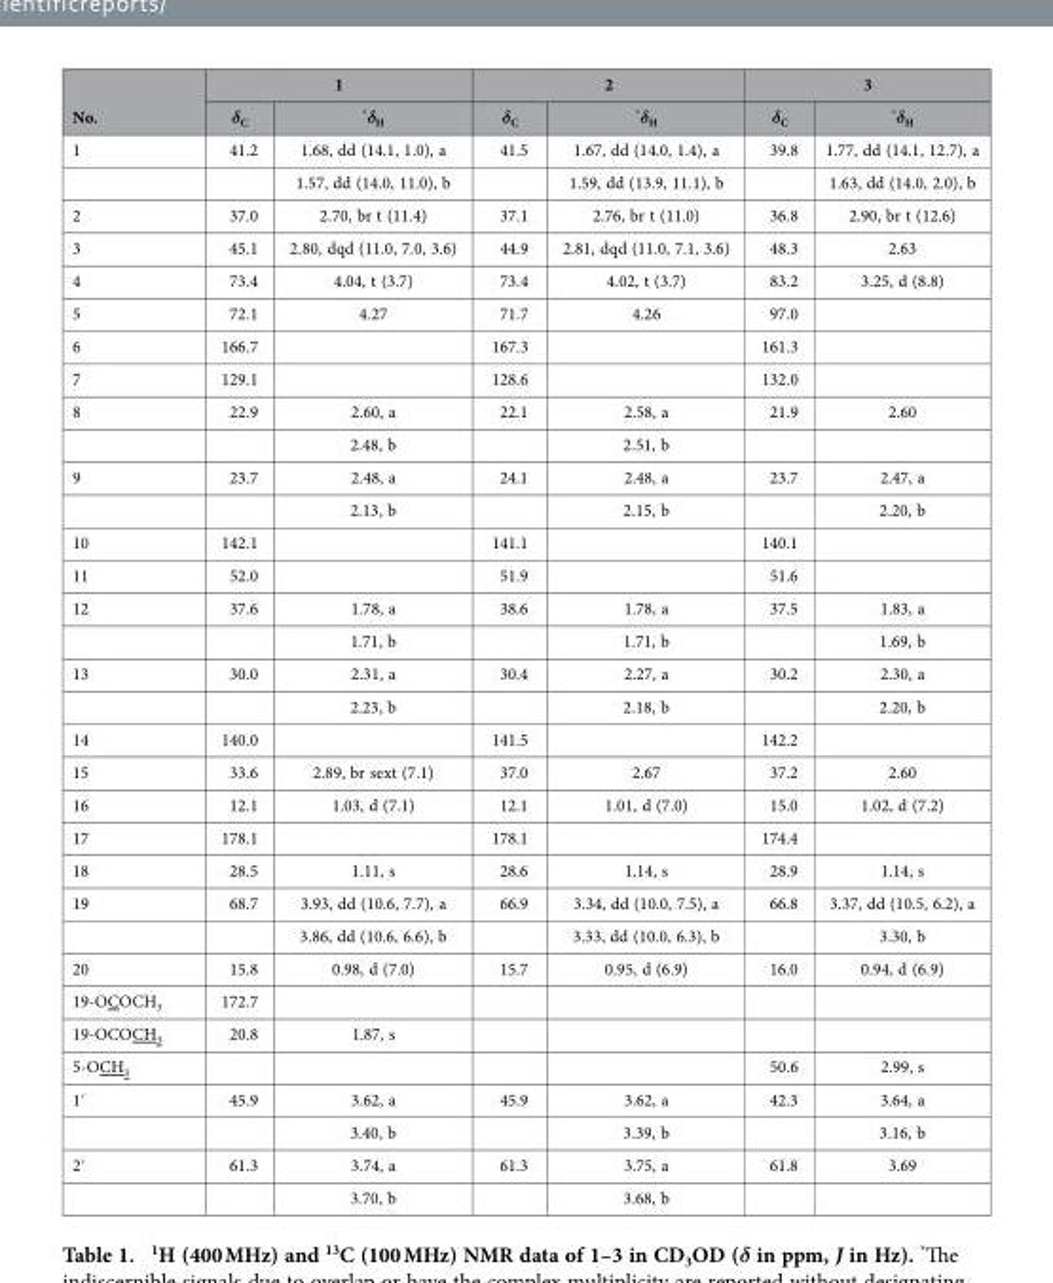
<table><thead><tr><td rowspan="2">No.</td><td colspan="2">1</td><td colspan="2">2</td><td colspan="2">3</td></tr><tr><td>δ<sub>C</sub></td><td>*δ<sub>H</sub></td><td>δ<sub>C</sub></td><td>*δ<sub>H</sub></td><td>δ<sub>C</sub></td><td>*δ<sub>H</sub></td></tr></thead><tbody><tr><td rowspan="2">1</td><td>41.2</td><td>1.68, dd (14.1, 1.0), a</td><td>41.5</td><td>1.67, dd (14.0, 1.4), a</td><td>39.8</td><td>1.77, dd (14.1, 12.7), a</td></tr><tr><td></td><td>1.57, dd (14.0, 11.0), b</td><td></td><td>1.59, dd (13.9, 11.1), b</td><td></td><td>1.63, dd (14.0, 2.0), b</td></tr><tr><td>2</td><td>37.0</td><td>2.70, br t (11.4)</td><td>37.1</td><td>2.76, br t (11.0)</td><td>36.8</td><td>2.90, br t (12.6)</td></tr><tr><td>3</td><td>45.1</td><td>2.80, dqd (11.0, 7.0, 3.6)</td><td>44.9</td><td>2.81, dqd (11.0, 7.1, 3.6)</td><td>48.3</td><td>2.63</td></tr><tr><td>4</td><td>73.4</td><td>4.04, t (3.7)</td><td>73.4</td><td>4.02, t (3.7)</td><td>83.2</td><td>3.25, d (8.8)</td></tr><tr><td>5</td><td>72.1</td><td>4.27</td><td>71.7</td><td>4.26</td><td>97.0</td><td></td></tr><tr><td>6</td><td>166.7</td><td></td><td>167.3</td><td></td><td>161.3</td><td></td></tr><tr><td>7</td><td>129.1</td><td></td><td>128.6</td><td></td><td>132.0</td><td></td></tr><tr><td rowspan="2">8</td><td>22.9</td><td>2.60, a</td><td>22.1</td><td>2.58, a</td><td>21.9</td><td>2.60</td></tr><tr><td></td><td>2.48, b</td><td></td><td>2.51, b</td><td></td><td></td></tr><tr><td rowspan="2">9</td><td>23.7</td><td>2.48, a</td><td>24.1</td><td>2.48, a</td><td>23.7</td><td>2.47, a</td></tr><tr><td></td><td>2.13, b</td><td></td><td>2.15, b</td><td></td><td>2.20, b</td></tr><tr><td>10</td><td>142.1</td><td></td><td>141.1</td><td></td><td>140.1</td><td></td></tr><tr><td>11</td><td>52.0</td><td></td><td>51.9</td><td></td><td>51.6</td><td></td></tr><tr><td rowspan="2">12</td><td>37.6</td><td>1.78, a</td><td>38.6</td><td>1.78, a</td><td>37.5</td><td>1.83, a</td></tr><tr><td></td><td>1.71, b</td><td></td><td>1.71, b</td><td></td><td>1.69, b</td></tr><tr><td rowspan="2">13</td><td>30.0</td><td>2.31, a</td><td>30.4</td><td>2.27, a</td><td>30.2</td><td>2.30, a</td></tr><tr><td></td><td>2.23, b</td><td></td><td>2.18, b</td><td></td><td>2.20, b</td></tr><tr><td>14</td><td>140.0</td><td></td><td>141.5</td><td></td><td>142.2</td><td></td></tr><tr><td>15</td><td>33.6</td><td>2.89, br sext (7.1)</td><td>37.0</td><td>2.67</td><td>37.2</td><td>2.60</td></tr><tr><td>16</td><td>12.1</td><td>1.03, d (7.1)</td><td>12.1</td><td>1.01, d (7.0)</td><td>15.0</td><td>1.02, d (7.2)</td></tr><tr><td>17</td><td>178.1</td><td></td><td>178.1</td><td></td><td>174.4</td><td></td></tr><tr><td>18</td><td>28.5</td><td>1.11, s</td><td>28.6</td><td>1.14, s</td><td>28.9</td><td>1.14, s</td></tr><tr><td rowspan="2">19</td><td>68.7</td><td>3.93, dd (10.6, 7.7), a</td><td>66.9</td><td>3.34, dd (10.0, 7.5), a</td><td>66.8</td><td>3.37, dd (10.5, 6.2), a</td></tr><tr><td></td><td>3.86, dd (10.6, 6.6), b</td><td></td><td>3.33, dd (10.0, 6.3), b</td><td></td><td>3.30, b</td></tr><tr><td>20</td><td>15.8</td><td>0.98, d (7.0)</td><td>15.7</td><td>0.95, d (6.9)</td><td>16.0</td><td>0.94, d (6.9)</td></tr><tr><td>19-OCOCH<sub>3</sub></td><td>172.7</td><td></td><td></td><td></td><td></td><td></td></tr><tr><td>19-OCOCH<sub>3</sub></td><td>20.8</td><td>1.87, s</td><td></td><td></td><td></td><td></td></tr><tr><td>5-OCH<sub>3</sub></td><td></td><td></td><td></td><td></td><td>50.6</td><td>2.99, s</td></tr><tr><td rowspan="2">1′</td><td>45.9</td><td>3.62, a</td><td>45.9</td><td>3.62, a</td><td>42.3</td><td>3.64, a</td></tr><tr><td></td><td>3.40, b</td><td></td><td>3.39, b</td><td></td><td>3.16, b</td></tr><tr><td rowspan="2">2′</td><td>61.3</td><td>3.74, a</td><td>61.3</td><td>3.75, a</td><td>61.8</td><td>3.69</td></tr><tr><td></td><td>3.70, b</td><td></td><td>3.68, b</td><td></td><td></td></tr></tbody></table>